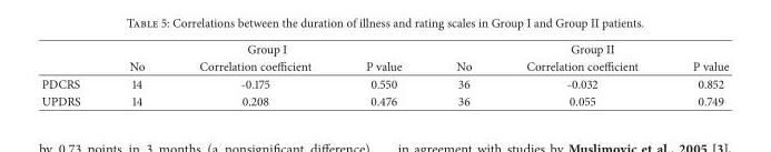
<table><thead><tr><td rowspan="2"></td><td colspan="3">Group I</td><td colspan="3">Group II</td></tr><tr><td>No</td><td>Correlation coefficient</td><td>P value</td><td>No</td><td>Correlation coefficient</td><td>P value</td></tr></thead><tbody><tr><td>PDCRS</td><td>14</td><td>-0.175</td><td>0.550</td><td>36</td><td>-0.032</td><td>0.852</td></tr><tr><td>UPDRS</td><td>14</td><td>0.208</td><td>0.476</td><td>36</td><td>0.055</td><td>0.749</td></tr></tbody></table>